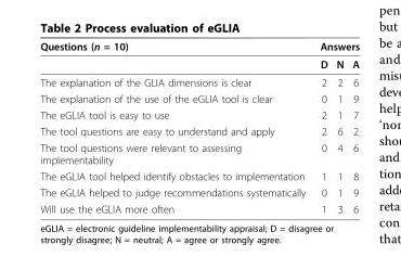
<table><thead><tr><td rowspan="2">Questions (n = 10)</td><td colspan="3">Answers</td></tr><tr><td>D</td><td>N</td><td>A</td></tr></thead><tbody><tr><td>The explanation of the GLIA dimensions is clear</td><td>2</td><td>2</td><td>6</td></tr><tr><td>The explanation of the use of the eGLIA tool is clear</td><td>0</td><td>1</td><td>9</td></tr><tr><td>The eGLIA tool is easy to use</td><td>2</td><td>1</td><td>7</td></tr><tr><td>The tool questions are easy to understand and apply</td><td>2</td><td>6</td><td>2</td></tr><tr><td>The tool questions were relevant to assessing implementability</td><td>0</td><td>4</td><td>6</td></tr><tr><td>The eGLIA tool helped identify obstacles to implementation</td><td>1</td><td>1</td><td>8</td></tr><tr><td>The eGLIA helped to judge recommendations systematically</td><td>0</td><td>1</td><td>9</td></tr><tr><td>Will use the eGLIA more often</td><td>1</td><td>3</td><td>6</td></tr></tbody></table>